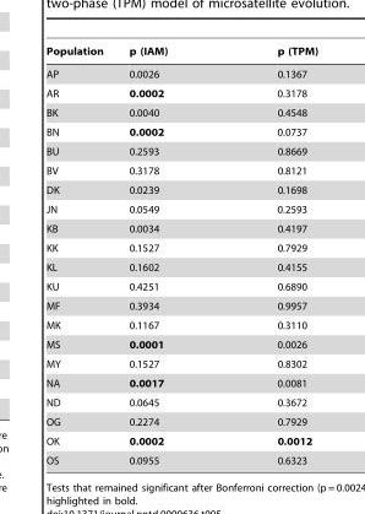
<table><thead><tr><td>Population</td><td>p (IAM)</td><td>p (TPM)</td></tr></thead><tbody><tr><td>AP</td><td>0.0026</td><td>0.1367</td></tr><tr><td>AR</td><td>0.0002</td><td>0.3178</td></tr><tr><td>BK</td><td>0.0040</td><td>0.4548</td></tr><tr><td>BN</td><td>0.0002</td><td>0.0737</td></tr><tr><td>BU</td><td>0.2593</td><td>0.8669</td></tr><tr><td>BV</td><td>0.3178</td><td>0.8121</td></tr><tr><td>DK</td><td>0.0239</td><td>0.1698</td></tr><tr><td>JN</td><td>0.0549</td><td>0.2593</td></tr><tr><td>KB</td><td>0.0034</td><td>0.4197</td></tr><tr><td>KK</td><td>0.1527</td><td>0.7929</td></tr><tr><td>KL</td><td>0.1602</td><td>0.4155</td></tr><tr><td>KU</td><td>0.4251</td><td>0.6890</td></tr><tr><td>MF</td><td>0.3934</td><td>0.9957</td></tr><tr><td>MK</td><td>0.1167</td><td>0.3110</td></tr><tr><td>MS</td><td>0.0001</td><td>0.0026</td></tr><tr><td>MY</td><td>0.1527</td><td>0.8302</td></tr><tr><td>NA</td><td>0.0017</td><td>0.0081</td></tr><tr><td>ND</td><td>0.0645</td><td>0.3672</td></tr><tr><td>OG</td><td>0.2274</td><td>0.7929</td></tr><tr><td>OK</td><td>0.0002</td><td>0.0012</td></tr><tr><td>OS</td><td>0.0955</td><td>0.6323</td></tr></tbody></table>